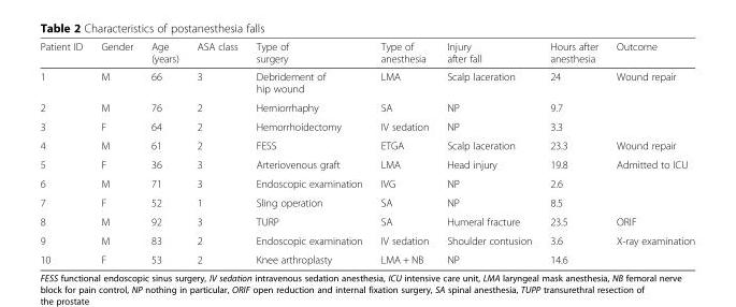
<table><thead><tr><td>Patient ID</td><td>Gender</td><td>Age (years)</td><td>ASA class</td><td>Type of surgery</td><td>Type of anesthesia</td><td>Injury after fall</td><td>Hours after anesthesia</td><td>Outcome</td></tr></thead><tbody><tr><td>1</td><td>M</td><td>66</td><td>3</td><td>Debridement of hip wound</td><td>LMA</td><td>Scalp laceration</td><td>24</td><td>Wound repair</td></tr><tr><td>2</td><td>M</td><td>76</td><td>2</td><td>Herniorrhaphy</td><td>SA</td><td>NP</td><td>9.7</td><td></td></tr><tr><td>3</td><td>F</td><td>64</td><td>2</td><td>Hemorrhoidectomy</td><td>IV sedation</td><td>NP</td><td>3.3</td><td></td></tr><tr><td>4</td><td>M</td><td>61</td><td>2</td><td>FESS</td><td>ETGA</td><td>Scalp laceration</td><td>23.3</td><td>Wound repair</td></tr><tr><td>5</td><td>F</td><td>36</td><td>3</td><td>Arteriovenous graft</td><td>LMA</td><td>Head injury</td><td>19.8</td><td>Admitted to ICU</td></tr><tr><td>6</td><td>M</td><td>71</td><td>3</td><td>Endoscopic examination</td><td>IVG</td><td>NP</td><td>2.6</td><td></td></tr><tr><td>7</td><td>F</td><td>52</td><td>1</td><td>Sling operation</td><td>SA</td><td>NP</td><td>8.5</td><td></td></tr><tr><td>8</td><td>M</td><td>92</td><td>3</td><td>TURP</td><td>SA</td><td>Humeral fracture</td><td>23.5</td><td>ORIF</td></tr><tr><td>9</td><td>M</td><td>83</td><td>2</td><td>Endoscopic examination</td><td>IV sedation</td><td>Shoulder contusion</td><td>3.6</td><td>X-ray examination</td></tr><tr><td>10</td><td>F</td><td>53</td><td>2</td><td>Knee arthroplasty</td><td>LMA + NB</td><td>NP</td><td>14.6</td><td></td></tr></tbody></table>